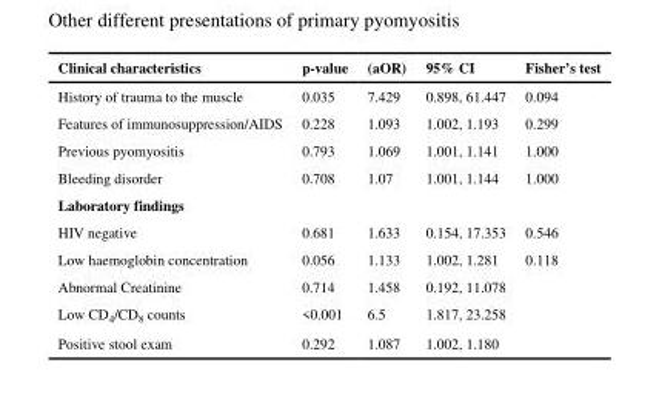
<table><thead><tr><td>Clinical characteristics</td><td>p-value</td><td>(aOR)</td><td>95% CI</td><td>Fisher’s test</td></tr></thead><tbody><tr><td>History of trauma to the muscle</td><td>0.035</td><td>7.429</td><td>0.898, 61.447</td><td>0.094</td></tr><tr><td>Features of immunosuppression/AIDS</td><td>0.228</td><td>1.093</td><td>1.002, 1.193</td><td>0.299</td></tr><tr><td>Previous pyomyositis</td><td>0.793</td><td>1.069</td><td>1.001, 1.141</td><td>1.000</td></tr><tr><td>Bleeding disorder</td><td>0.708</td><td>1.07</td><td>1.001, 1.144</td><td>1.000</td></tr><tr><td colspan="5">Laboratory findings</td></tr><tr><td>HIV negative</td><td>0.681</td><td>1.633</td><td>0.154, 17.353</td><td>0.546</td></tr><tr><td>Low haemoglobin concentration</td><td>0.056</td><td>1.133</td><td>1.002, 1.281</td><td>0.118</td></tr><tr><td>Abnormal Creatinine</td><td>0.714</td><td>1.458</td><td>0.192, 11.078</td><td></td></tr><tr><td>Low CD<sub>4</sub>/CD<sub>8</sub> counts</td><td>&lt;0.001</td><td>6.5</td><td>1.817, 23.258</td><td></td></tr><tr><td>Positive stool exam</td><td>0.292</td><td>1.087</td><td>1.002, 1.180</td><td></td></tr></tbody></table>